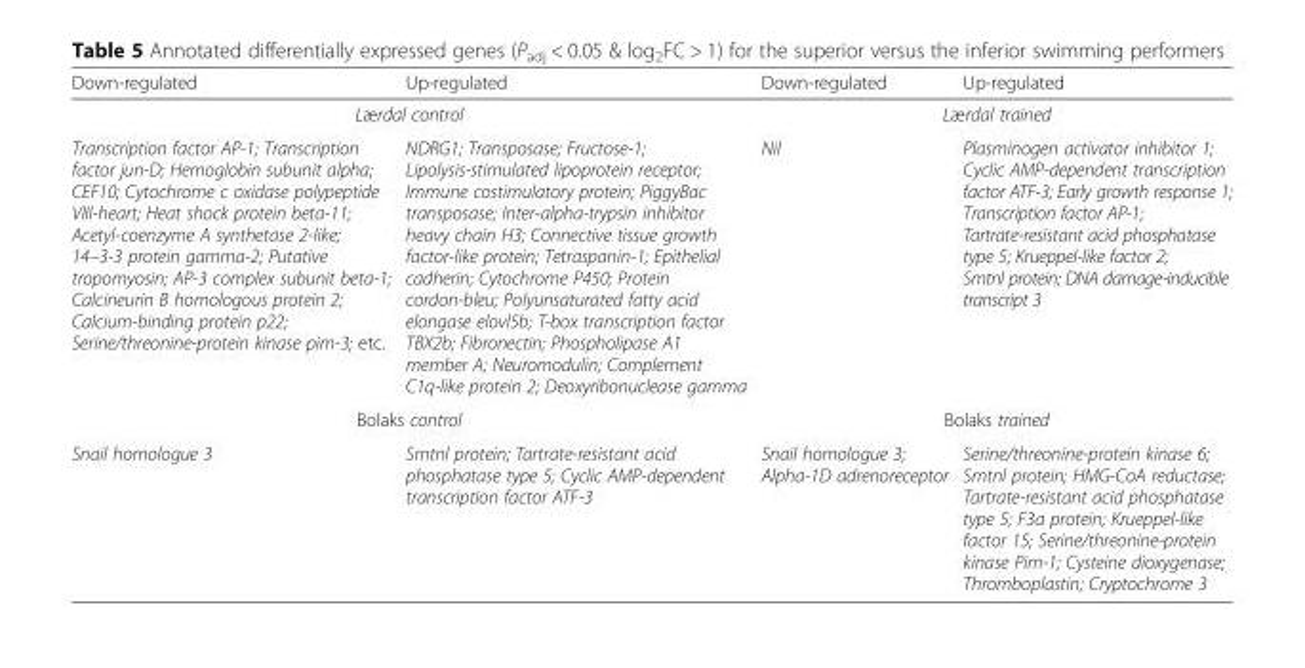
<table><thead><tr><td>Down-regulated</td><td>Up-regulated</td><td>Down-regulated</td><td>Up-regulated</td></tr></thead><tbody><tr><td colspan="2">Lærdal control</td><td colspan="2">Lærdal trained</td></tr><tr><td>Transcription factor AP-1; Transcription factor jun-D; Hemoglobin subunit alpha; CEF10; Cytochrome c oxidase polypeptide VIII-heart; Heat shock protein beta-11; Acetyl-coenzyme A synthetase 2-like; 14–3-3 protein gamma-2; Putative tropomyosin; AP-3 complex subunit beta-1; Calcineurin B homologous protein 2; Calcium-binding protein p22; Serine/threonine-protein kinase pim-3; etc.</td><td>NDRG1; Transposase; Fructose-1; Lipolysis-stimulated lipoprotein receptor; Immune costimulatory protein; PiggyBac transposase; Inter-alpha-trypsin inhibitor heavy chain H3; Connective tissue growth factor-like protein; Tetraspanin-1; Epithelial cadherin; Cytochrome P450; Protein cordon-bleu; Polyunsaturated fatty acid elongase elovl5b; T-box transcription factor TBX2b; Fibronectin; Phospholipase A1 member A; Neuromodulin; Complement C1q-like protein 2; Deoxyribonuclease gamma</td><td>Nil</td><td>Plasminogen activator inhibitor 1; Cyclic AMP-dependent transcription factor ATF-3; Early growth response 1; Transcription factor AP-1; Tartrate-resistant acid phosphatase type 5; Krueppel-like factor 2; Smtnl protein; DNA damage-inducible transcript 3</td></tr><tr><td colspan="2">Bolaks control</td><td colspan="2">Bolaks trained</td></tr><tr><td>Snail homologue 3</td><td>Smtnl protein; Tartrate-resistant acid phosphatase type 5; Cyclic AMP-dependent transcription factor ATF-3</td><td>Snail homologue 3; Alpha-1D adrenoreceptor</td><td>Serine/threonine-protein kinase 6; Smtnl protein; HMG-CoA reductase; Tartrate-resistant acid phosphatase type 5; F3a protein; Krueppel-like factor 15; Serine/threonine-protein kinase Pim-1; Cysteine dioxygenase; Thromboplastin; Cryptochrome 3</td></tr></tbody></table>